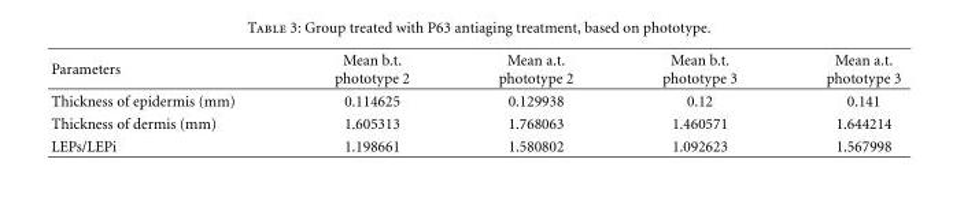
<table><thead><tr><td>Parameters</td><td>Mean b.t. phototype 2</td><td>Mean a.t. phototype 2</td><td>Mean b.t. phototype 3</td><td>Mean a.t. phototype 3</td></tr></thead><tbody><tr><td>Thickness of epidermis (mm)</td><td>0.114625</td><td>0.129938</td><td>0.12</td><td>0.141</td></tr><tr><td>Thickness of dermis (mm)</td><td>1.605313</td><td>1.768063</td><td>1.460571</td><td>1.644214</td></tr><tr><td>LEPs/LEPi</td><td>1.198661</td><td>1.580802</td><td>1.092623</td><td>1.567998</td></tr></tbody></table>